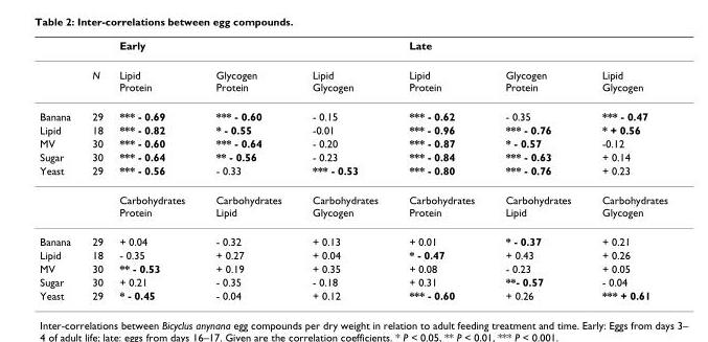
<table><thead><tr><td rowspan="2"></td><td rowspan="2">N</td><td colspan="3">Early</td><td colspan="3">Late</td></tr><tr><td>Lipid Protein</td><td>Glycogen Protein</td><td>Lipid Glycogen</td><td>Lipid Protein</td><td>Glycogen Protein</td><td>Lipid Glycogen</td></tr></thead><tbody><tr><td>Banana</td><td>29</td><td>*** - 0.69</td><td>*** - 0.60</td><td>- 0.15</td><td>*** - 0.62</td><td>- 0.35</td><td>*** - 0.47</td></tr><tr><td>Lipid</td><td>18</td><td>*** - 0.82</td><td>* - 0.55</td><td>-0.01</td><td>*** - 0.96</td><td>*** - 0.76</td><td>* + 0.56</td></tr><tr><td>MV</td><td>30</td><td>*** - 0.60</td><td>*** - 0.64</td><td>- 0.20</td><td>*** - 0.87</td><td>* - 0.57</td><td>-0.12</td></tr><tr><td>Sugar</td><td>30</td><td>*** - 0.64</td><td>** - 0.56</td><td>- 0.23</td><td>*** - 0.84</td><td>*** - 0.63</td><td>+ 0.14</td></tr><tr><td rowspan="2">Yeast</td><td>29</td><td>*** - 0.56</td><td>- 0.33</td><td>*** - 0.53</td><td>*** - 0.80</td><td>*** - 0.76</td><td>+ 0.23</td></tr><tr><td></td><td>Carbohydrates Protein</td><td>Carbohydrates Lipid</td><td>Carbohydrates Glycogen</td><td>Carbohydrates Protein</td><td>Carbohydrates Lipid</td><td>Carbohydrates Glycogen</td></tr><tr><td>Banana</td><td>29</td><td>+ 0.04</td><td>- 0.32</td><td>+ 0.13</td><td>+ 0.01</td><td>* - 0.37</td><td>+ 0.21</td></tr><tr><td>Lipid</td><td>18</td><td>- 0.35</td><td>+ 0.27</td><td>+ 0.04</td><td>* - 0.47</td><td>+ 0.43</td><td>+ 0.26</td></tr><tr><td>MV</td><td>30</td><td>** - 0.53</td><td>+ 0.19</td><td>+ 0.35</td><td>+ 0.08</td><td>- 0.23</td><td>+ 0.05</td></tr><tr><td>Sugar</td><td>30</td><td>+ 0.21</td><td>- 0.35</td><td>- 0.18</td><td>+ 0.31</td><td>**- 0.57</td><td>- 0.04</td></tr><tr><td>Yeast</td><td>29</td><td>* - 0.45</td><td>- 0.04</td><td>+ 0.12</td><td>*** - 0.60</td><td>+ 0.26</td><td>*** + 0.61</td></tr></tbody></table>